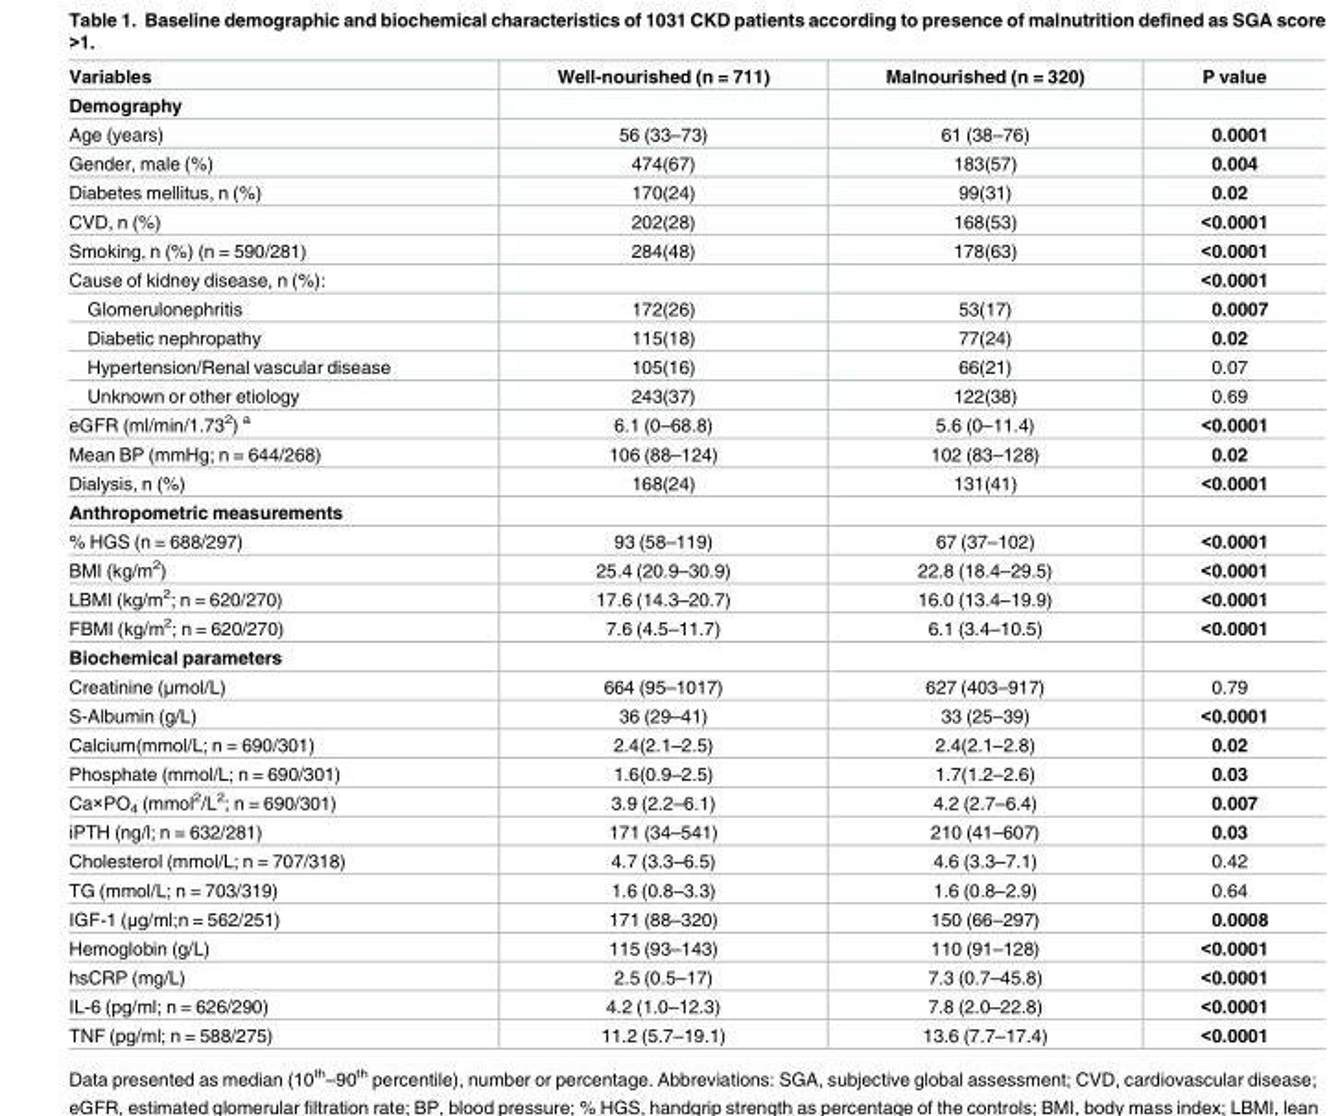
<table><thead><tr><td>Variables</td><td>Well-nourished (n = 711)</td><td>Malnourished (n = 320)</td><td>P value</td></tr></thead><tbody><tr><td colspan="4">Demography</td></tr><tr><td>Age (years)</td><td>56 (33–73)</td><td>61 (38–76)</td><td>0.0001</td></tr><tr><td>Gender, male (%)</td><td>474(67)</td><td>183(57)</td><td>0.004</td></tr><tr><td>Diabetes mellitus, n (%)</td><td>170(24)</td><td>99(31)</td><td>0.02</td></tr><tr><td>CVD, n (%)</td><td>202(28)</td><td>168(53)</td><td>&lt;0.0001</td></tr><tr><td>Smoking, n (%) (n = 590/281)</td><td>284(48)</td><td>178(63)</td><td>&lt;0.0001</td></tr><tr><td>Cause of kidney disease, n (%):</td><td></td><td></td><td>&lt;0.0001</td></tr><tr><td>Glomerulonephritis</td><td>172(26)</td><td>53(17)</td><td>0.0007</td></tr><tr><td>Diabetic nephropathy</td><td>115(18)</td><td>77(24)</td><td>0.02</td></tr><tr><td>Hypertension/Renal vascular disease</td><td>105(16)</td><td>66(21)</td><td>0.07</td></tr><tr><td>Unknown or other etiology</td><td>243(37)</td><td>122(38)</td><td>0.69</td></tr><tr><td>eGFR (ml/min/1.73<sup>2</sup>) <sup>a</sup></td><td>6.1 (0–68.8)</td><td>5.6 (0–11.4)</td><td>&lt;0.0001</td></tr><tr><td>Mean BP (mmHg; n = 644/268)</td><td>106 (88–124)</td><td>102 (83–128)</td><td>0.02</td></tr><tr><td>Dialysis, n (%)</td><td>168(24)</td><td>131(41)</td><td>&lt;0.0001</td></tr><tr><td colspan="4">Anthropometric measurements</td></tr><tr><td>% HGS (n = 688/297)</td><td>93 (58–119)</td><td>67 (37–102)</td><td>&lt;0.0001</td></tr><tr><td>BMI (kg/m<sup>2</sup>)</td><td>25.4 (20.9–30.9)</td><td>22.8 (18.4–29.5)</td><td>&lt;0.0001</td></tr><tr><td>LBMI (kg/m<sup>2</sup>; n = 620/270)</td><td>17.6 (14.3–20.7)</td><td>16.0 (13.4–19.9)</td><td>&lt;0.0001</td></tr><tr><td>FBMI (kg/m<sup>2</sup>; n = 620/270)</td><td>7.6 (4.5–11.7)</td><td>6.1 (3.4–10.5)</td><td>&lt;0.0001</td></tr><tr><td colspan="4">Biochemical parameters</td></tr><tr><td>Creatinine (μmol/L)</td><td>664 (95–1017)</td><td>627 (403–917)</td><td>0.79</td></tr><tr><td>S-Albumin (g/L)</td><td>36 (29–41)</td><td>33 (25–39)</td><td>&lt;0.0001</td></tr><tr><td>Calcium(mmol/L; n = 690/301)</td><td>2.4(2.1–2.5)</td><td>2.4(2.1–2.8)</td><td>0.02</td></tr><tr><td>Phosphate (mmol/L; n = 690/301)</td><td>1.6(0.9–2.5)</td><td>1.7(1.2–2.6)</td><td>0.03</td></tr><tr><td>Ca×PO<sub>4</sub> (mmol<sup>2</sup>/L<sup>2</sup>; n = 690/301)</td><td>3.9 (2.2–6.1)</td><td>4.2 (2.7–6.4)</td><td>0.007</td></tr><tr><td>iPTH (ng/l; n = 632/281)</td><td>171 (34–541)</td><td>210 (41–607)</td><td>0.03</td></tr><tr><td>Cholesterol (mmol/L; n = 707/318)</td><td>4.7 (3.3–6.5)</td><td>4.6 (3.3–7.1)</td><td>0.42</td></tr><tr><td>TG (mmol/L; n = 703/319)</td><td>1.6 (0.8–3.3)</td><td>1.6 (0.8–2.9)</td><td>0.64</td></tr><tr><td>IGF-1 (μg/ml;n = 562/251)</td><td>171 (88–320)</td><td>150 (66–297)</td><td>0.0008</td></tr><tr><td>Hemoglobin (g/L)</td><td>115 (93–143)</td><td>110 (91–128)</td><td>&lt;0.0001</td></tr><tr><td>hsCRP (mg/L)</td><td>2.5 (0.5–17)</td><td>7.3 (0.7–45.8)</td><td>&lt;0.0001</td></tr><tr><td>IL-6 (pg/ml; n = 626/290)</td><td>4.2 (1.0–12.3)</td><td>7.8 (2.0–22.8)</td><td>&lt;0.0001</td></tr><tr><td>TNF (pg/ml; n = 588/275)</td><td>11.2 (5.7–19.1)</td><td>13.6 (7.7–17.4)</td><td>&lt;0.0001</td></tr></tbody></table>